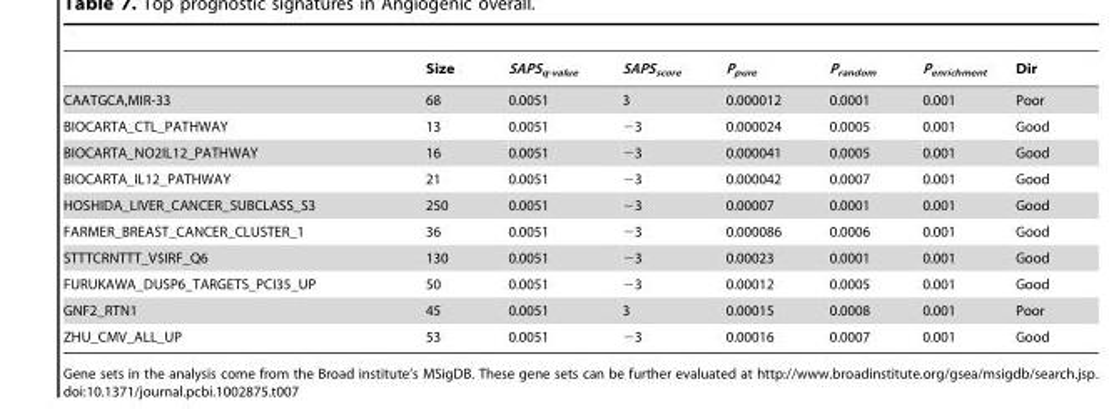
<table><thead><tr><td></td><td>Size</td><td>SAPS<sub>q-value</sub></td><td>SAPS<sub>score</sub></td><td>P<sub>pure</sub></td><td>P<sub>random</sub></td><td>P<sub>enrichment</sub></td><td>Dir</td></tr></thead><tbody><tr><td>CAATGCA,MIR-33</td><td>68</td><td>0.0051</td><td>3</td><td>0.000012</td><td>0.0001</td><td>0.001</td><td>Poor</td></tr><tr><td>BIOCARTA_CTL_PATHWAY</td><td>13</td><td>0.0051</td><td>−3</td><td>0.000024</td><td>0.0005</td><td>0.001</td><td>Good</td></tr><tr><td>BIOCARTA_NO2IL12_PATHWAY</td><td>16</td><td>0.0051</td><td>−3</td><td>0.000041</td><td>0.0005</td><td>0.001</td><td>Good</td></tr><tr><td>BIOCARTA_IL12_PATHWAY</td><td>21</td><td>0.0051</td><td>−3</td><td>0.000042</td><td>0.0007</td><td>0.001</td><td>Good</td></tr><tr><td>HOSHIDA_LIVER_CANCER_SUBCLASS_S3</td><td>250</td><td>0.0051</td><td>−3</td><td>0.00007</td><td>0.0001</td><td>0.001</td><td>Good</td></tr><tr><td>FARMER_BREAST_CANCER_CLUSTER_1</td><td>36</td><td>0.0051</td><td>−3</td><td>0.000086</td><td>0.0006</td><td>0.001</td><td>Good</td></tr><tr><td>STTTCRNTTT_V$IRF_Q6</td><td>130</td><td>0.0051</td><td>−3</td><td>0.00023</td><td>0.0001</td><td>0.001</td><td>Good</td></tr><tr><td>FURUKAWA_DUSP6_TARGETS_PCI35_UP</td><td>50</td><td>0.0051</td><td>−3</td><td>0.00012</td><td>0.0005</td><td>0.001</td><td>Good</td></tr><tr><td>GNF2_RTN1</td><td>45</td><td>0.0051</td><td>3</td><td>0.00015</td><td>0.0008</td><td>0.001</td><td>Poor</td></tr><tr><td>ZHU_CMV_ALL_UP</td><td>53</td><td>0.0051</td><td>−3</td><td>0.00016</td><td>0.0007</td><td>0.001</td><td>Good</td></tr></tbody></table>